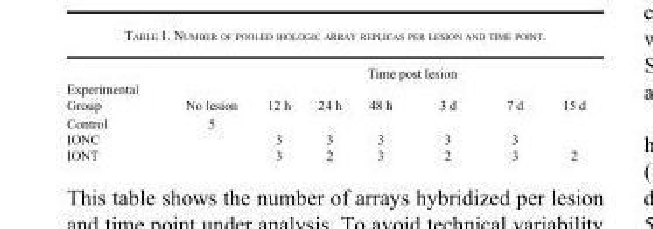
<table><tbody><tr><td colspan="8">Time post lesion</td></tr><tr><td>Experimental Group</td><td>No lesion</td><td>12 h</td><td>24 h</td><td>48 h</td><td>3 d</td><td>7 d</td><td>15 d</td></tr><tr><td>Control</td><td>5</td><td></td><td></td><td></td><td></td><td></td><td></td></tr><tr><td>IONC</td><td></td><td>3</td><td>3</td><td>3</td><td>3</td><td>3</td><td></td></tr><tr><td>IONT</td><td></td><td>3</td><td>2</td><td>3</td><td>2</td><td>3</td><td>2</td></tr></tbody></table>